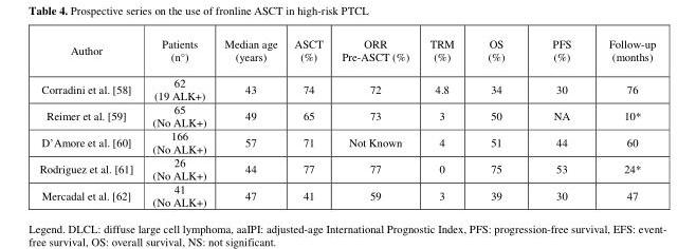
<table><thead><tr><td>Author</td><td>Patients (n°)</td><td>Median age (years)</td><td>ASCT (%)</td><td>ORR Pre-ASCT (%)</td><td>TRM (%)</td><td>OS (%)</td><td>PFS (%)</td><td>Follow-up (months)</td></tr></thead><tbody><tr><td>Corradini et al. [58]</td><td>62 (19 ALK+)</td><td>43</td><td>74</td><td>72</td><td>4.8</td><td>34</td><td>30</td><td>76</td></tr><tr><td>Reimer et al. [59]</td><td>65 (No ALK+)</td><td>49</td><td>65</td><td>73</td><td>3</td><td>50</td><td>NA</td><td>10*</td></tr><tr><td>D’Amore et al. [60]</td><td>166 (No ALK+)</td><td>57</td><td>71</td><td>Not Known</td><td>4</td><td>51</td><td>44</td><td>60</td></tr><tr><td>Rodriguez et al. [61]</td><td>26 (No ALK+)</td><td>44</td><td>77</td><td>77</td><td>0</td><td>75</td><td>53</td><td>24*</td></tr><tr><td>Mercadal et al. [62]</td><td>41 (No ALK+)</td><td>47</td><td>41</td><td>59</td><td>3</td><td>39</td><td>30</td><td>47</td></tr></tbody></table>